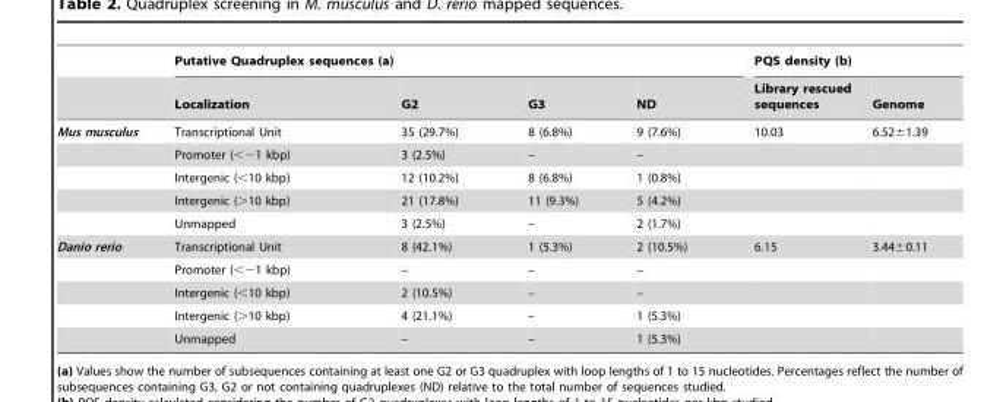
<table><thead><tr><td rowspan="2"></td><td colspan="4">Putative Quadruplex sequences (a)</td><td colspan="2">PQS density (b)</td></tr><tr><td>Localization</td><td>G2</td><td>G3</td><td>ND</td><td>Library rescued sequences</td><td>Genome</td></tr></thead><tbody><tr><td rowspan="5">Mus musculus</td><td>Transcriptional Unit</td><td>35 (29.7%)</td><td>8 (6.8%)</td><td>9 (7.6%)</td><td>10.03</td><td>6.52±1.39</td></tr><tr><td>Promoter (&lt;−1 kbp)</td><td>3 (2.5%)</td><td>–</td><td>–</td><td></td><td></td></tr><tr><td>Intergenic (&lt;10 kbp)</td><td>12 (10.2%)</td><td>8 (6.8%)</td><td>1 (0.8%)</td><td></td><td></td></tr><tr><td>Intergenic (&gt;10 kbp)</td><td>21 (17.8%)</td><td>11 (9.3%)</td><td>5 (4.2%)</td><td></td><td></td></tr><tr><td>Unmapped</td><td>3 (2.5%)</td><td>–</td><td>2 (1.7%)</td><td></td><td></td></tr><tr><td rowspan="5">Danio rerio</td><td>Transcriptional Unit</td><td>8 (42.1%)</td><td>1 (5.3%)</td><td>2 (10.5%)</td><td>6.15</td><td>3.44±0.11</td></tr><tr><td>Promoter (&lt;−1 kbp)</td><td>–</td><td>–</td><td>–</td><td></td><td></td></tr><tr><td>Intergenic (&lt;10 kbp)</td><td>2 (10.5%)</td><td>–</td><td>–</td><td></td><td></td></tr><tr><td>Intergenic (&gt;10 kbp)</td><td>4 (21.1%)</td><td>–</td><td>1 (5.3%)</td><td></td><td></td></tr><tr><td>Unmapped</td><td>–</td><td>–</td><td>1 (5.3%)</td><td></td><td></td></tr></tbody></table>